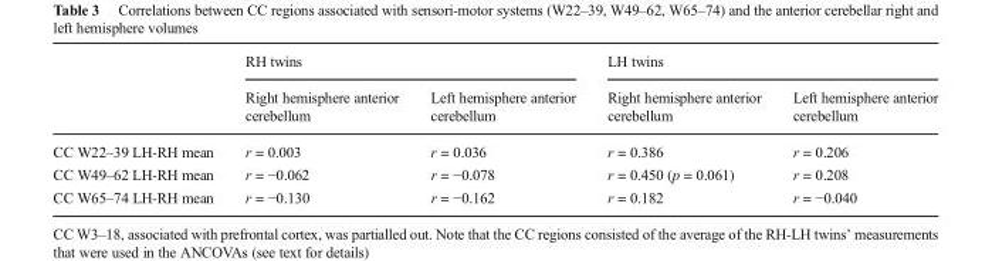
<table><thead><tr><td rowspan="2"></td><td colspan="2">RH twins</td><td colspan="2">LH twins</td></tr><tr><td>Right hemisphere anterior cerebellum</td><td>Left hemisphere anterior cerebellum</td><td>Right hemisphere anterior cerebellum</td><td>Left hemisphere anterior cerebellum</td></tr></thead><tbody><tr><td>CC W22–39 LH-RH mean</td><td>r = 0.003</td><td>r = 0.036</td><td>r = 0.386</td><td>r = 0.206</td></tr><tr><td>CC W49–62 LH-RH mean</td><td>r = −0.062</td><td>r = −0.078</td><td>r = 0.450 (p = 0.061)</td><td>r = 0.208</td></tr><tr><td>CC W65–74 LH-RH mean</td><td>r = −0.130</td><td>r = −0.162</td><td>r = 0.182</td><td>r = −0.040</td></tr></tbody></table>